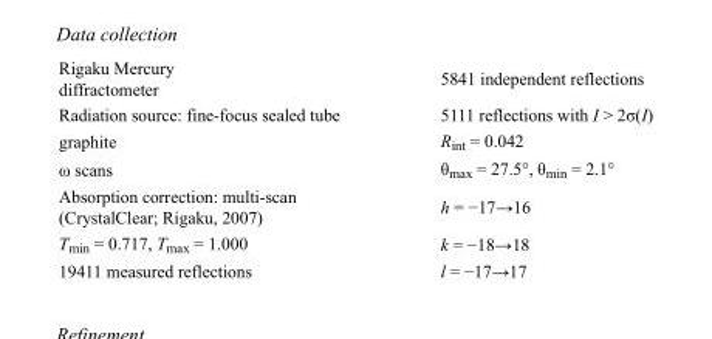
<table><tbody><tr><td>Rigaku Mercury diffractometer</td><td>5841 independent reflections</td></tr><tr><td>Radiation source: fine-focus sealed tube</td><td>5111 reflections with I &gt; 2σ(I)</td></tr><tr><td>graphite</td><td>R<sub>int</sub> = 0.042</td></tr><tr><td>ω scans</td><td>θ<sub>max</sub> = 27.5°, θ<sub>min</sub> = 2.1°</td></tr><tr><td>Absorption correction: multi-scan (CrystalClear; Rigaku, 2007)</td><td>h = −17→16</td></tr><tr><td>T<sub>min</sub> = 0.717, T<sub>max</sub> = 1.000</td><td>k = −18→18</td></tr><tr><td>19411 measured reflections</td><td>l = −17→17</td></tr></tbody></table>